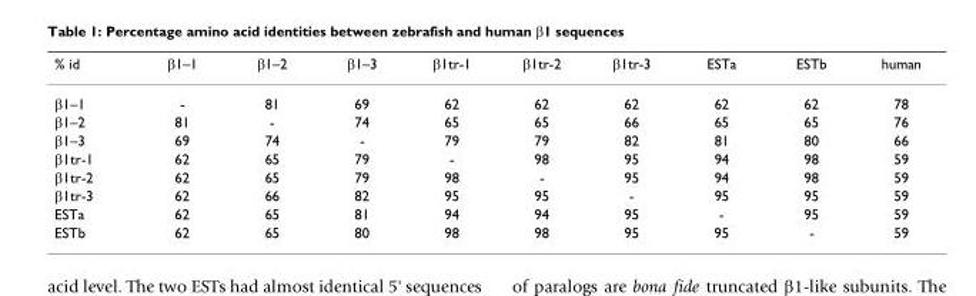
<table><thead><tr><td>% id</td><td>β1–1</td><td>β1–2</td><td>β1–3</td><td>β1tr-1</td><td>β1tr-2</td><td>β1tr-3</td><td>ESTa</td><td>ESTb</td><td>human</td></tr></thead><tbody><tr><td>β1–1</td><td>-</td><td>81</td><td>69</td><td>62</td><td>62</td><td>62</td><td>62</td><td>62</td><td>78</td></tr><tr><td>β1–2</td><td>81</td><td>-</td><td>74</td><td>65</td><td>65</td><td>66</td><td>65</td><td>65</td><td>76</td></tr><tr><td>β1–3</td><td>69</td><td>74</td><td>-</td><td>79</td><td>79</td><td>82</td><td>81</td><td>80</td><td>66</td></tr><tr><td>β1tr-1</td><td>62</td><td>65</td><td>79</td><td>-</td><td>98</td><td>95</td><td>94</td><td>98</td><td>59</td></tr><tr><td>β1tr-2</td><td>62</td><td>65</td><td>79</td><td>98</td><td>-</td><td>95</td><td>94</td><td>98</td><td>59</td></tr><tr><td>β1tr-3</td><td>62</td><td>66</td><td>82</td><td>95</td><td>95</td><td>-</td><td>95</td><td>95</td><td>59</td></tr><tr><td>ESTa</td><td>62</td><td>65</td><td>81</td><td>94</td><td>94</td><td>95</td><td>-</td><td>95</td><td>59</td></tr><tr><td>ESTb</td><td>62</td><td>65</td><td>80</td><td>98</td><td>98</td><td>95</td><td>95</td><td>-</td><td>59</td></tr></tbody></table>